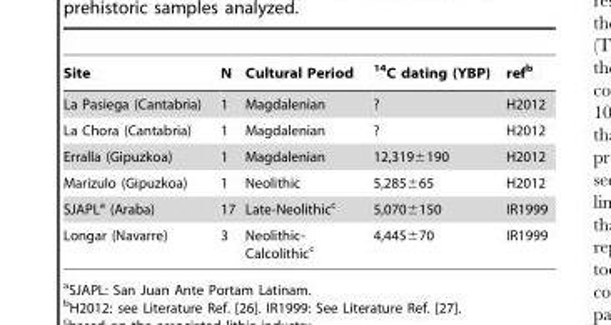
<table><thead><tr><td>Site</td><td>N</td><td>Cultural Period</td><td><sup>14</sup>C dating (YBP)</td><td>ref<sup>b</sup></td></tr></thead><tbody><tr><td>La Pasiega (Cantabria)</td><td>1</td><td>Magdalenian</td><td>?</td><td>H2012</td></tr><tr><td>La Chora (Cantabria)</td><td>1</td><td>Magdalenian</td><td>?</td><td>H2012</td></tr><tr><td>Erralla (Gipuzkoa)</td><td>1</td><td>Magdalenian</td><td>12,319±190</td><td>H2012</td></tr><tr><td>Marizulo (Gipuzkoa)</td><td>1</td><td>Neolithic</td><td>5,285±65</td><td>H2012</td></tr><tr><td>SJAPL<sup>a</sup> (Araba)</td><td>17</td><td>Late-Neolithic<sup>c</sup></td><td>5,070±150</td><td>IR1999</td></tr><tr><td>Longar (Navarre)</td><td>3</td><td>Neolithic- Calcolithic<sup>c</sup></td><td>4,445±70</td><td>IR1999</td></tr></tbody></table>